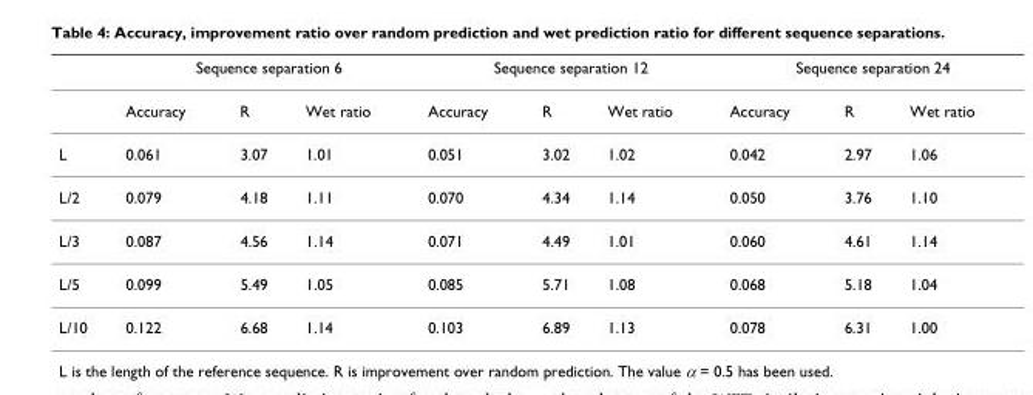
<table><thead><tr><td rowspan="2"></td><td colspan="3">Sequence separation 6</td><td colspan="3">Sequence separation 12</td><td colspan="3">Sequence separation 24</td></tr><tr><td>Accuracy</td><td>R</td><td>Wet ratio</td><td>Accuracy</td><td>R</td><td>Wet ratio</td><td>Accuracy</td><td>R</td><td>Wet ratio</td></tr></thead><tbody><tr><td>L</td><td>0.061</td><td>3.07</td><td>1.01</td><td>0.051</td><td>3.02</td><td>1.02</td><td>0.042</td><td>2.97</td><td>1.06</td></tr><tr><td>L/2</td><td>0.079</td><td>4.18</td><td>1.11</td><td>0.070</td><td>4.34</td><td>1.14</td><td>0.050</td><td>3.76</td><td>1.10</td></tr><tr><td>L/3</td><td>0.087</td><td>4.56</td><td>1.14</td><td>0.071</td><td>4.49</td><td>1.01</td><td>0.060</td><td>4.61</td><td>1.14</td></tr><tr><td>L/5</td><td>0.099</td><td>5.49</td><td>1.05</td><td>0.085</td><td>5.71</td><td>1.08</td><td>0.068</td><td>5.18</td><td>1.04</td></tr><tr><td>L/10</td><td>0.122</td><td>6.68</td><td>1.14</td><td>0.103</td><td>6.89</td><td>1.13</td><td>0.078</td><td>6.31</td><td>1.00</td></tr></tbody></table>